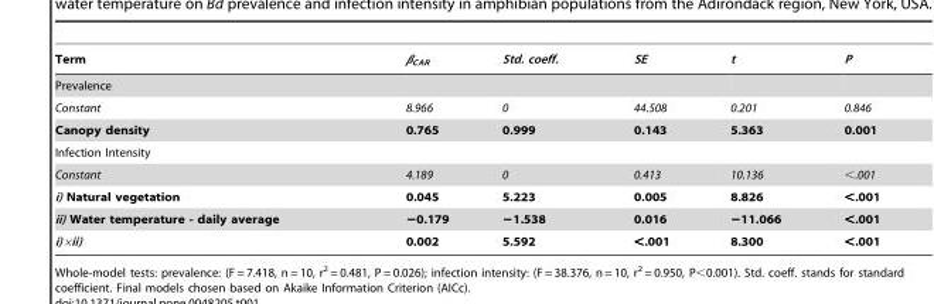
<table><thead><tr><td>Term</td><td>β<sub>CAR</sub></td><td>Std. coeff.</td><td>SE</td><td>t</td><td>P</td></tr></thead><tbody><tr><td colspan="6">Prevalence</td></tr><tr><td>Constant</td><td>8.966</td><td>0</td><td>44.508</td><td>0.201</td><td>0.846</td></tr><tr><td>Canopy density</td><td>0.765</td><td>0.999</td><td>0.143</td><td>5.363</td><td>0.001</td></tr><tr><td colspan="6">Infection Intensity</td></tr><tr><td>Constant</td><td>4.189</td><td>0</td><td>0.413</td><td>10.136</td><td>&lt;.001</td></tr><tr><td>i) Natural vegetation</td><td>0.045</td><td>5.223</td><td>0.005</td><td>8.826</td><td>&lt;.001</td></tr><tr><td>ii) Water temperature - daily average</td><td>−0.179</td><td>−1.538</td><td>0.016</td><td>−11.066</td><td>&lt;.001</td></tr><tr><td>i)×ii)</td><td>0.002</td><td>5.592</td><td>&lt;.001</td><td>8.300</td><td>&lt;.001</td></tr></tbody></table>